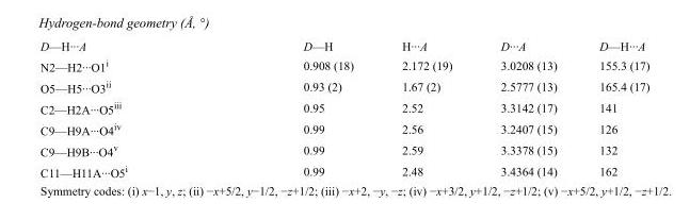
<table><tbody><tr><td>D—H···A</td><td>D—H</td><td>H···A</td><td>D···A</td><td>D—H···A</td></tr><tr><td>N2—H2···O1<sup>i</sup></td><td>0.908 (18)</td><td>2.172 (19)</td><td>3.0208 (13)</td><td>155.3 (17)</td></tr><tr><td>O5—H5···O3<sup>ii</sup></td><td>0.93 (2)</td><td>1.67 (2)</td><td>2.5777 (13)</td><td>165.4 (17)</td></tr><tr><td>C2—H2A···O5<sup>iii</sup></td><td>0.95</td><td>2.52</td><td>3.3142 (17)</td><td>141</td></tr><tr><td>C9—H9A···O4<sup>iv</sup></td><td>0.99</td><td>2.56</td><td>3.2407 (15)</td><td>126</td></tr><tr><td>C9—H9B···O4<sup>v</sup></td><td>0.99</td><td>2.59</td><td>3.3378 (15)</td><td>132</td></tr><tr><td>C11—H11A···O5<sup>i</sup></td><td>0.99</td><td>2.48</td><td>3.4364 (14)</td><td>162</td></tr></tbody></table>